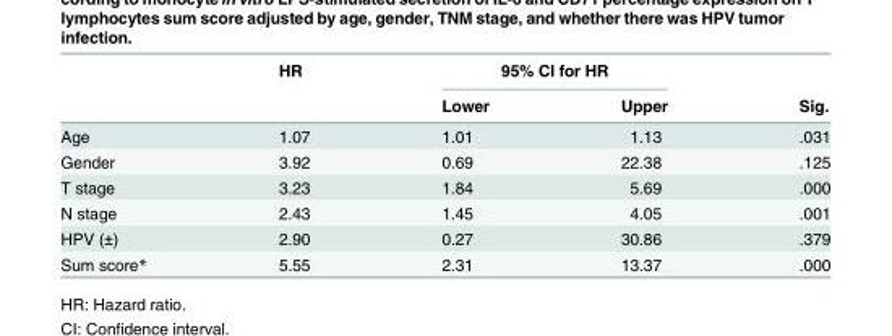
<table><thead><tr><td rowspan="2"></td><td rowspan="2">HR</td><td colspan="2">95% CI for HR</td><td rowspan="2">Sig.</td></tr><tr><td>Lower</td><td>Upper</td></tr></thead><tbody><tr><td>Age</td><td>1.07</td><td>1.01</td><td>1.13</td><td>.031</td></tr><tr><td>Gender</td><td>3.92</td><td>0.69</td><td>22.38</td><td>.125</td></tr><tr><td>T stage</td><td>3.23</td><td>1.84</td><td>5.69</td><td>.000</td></tr><tr><td>N stage</td><td>2.43</td><td>1.45</td><td>4.05</td><td>.001</td></tr><tr><td>HPV (±)</td><td>2.90</td><td>0.27</td><td>30.86</td><td>.379</td></tr><tr><td>Sum score*</td><td>5.55</td><td>2.31</td><td>13.37</td><td>.000</td></tr></tbody></table>